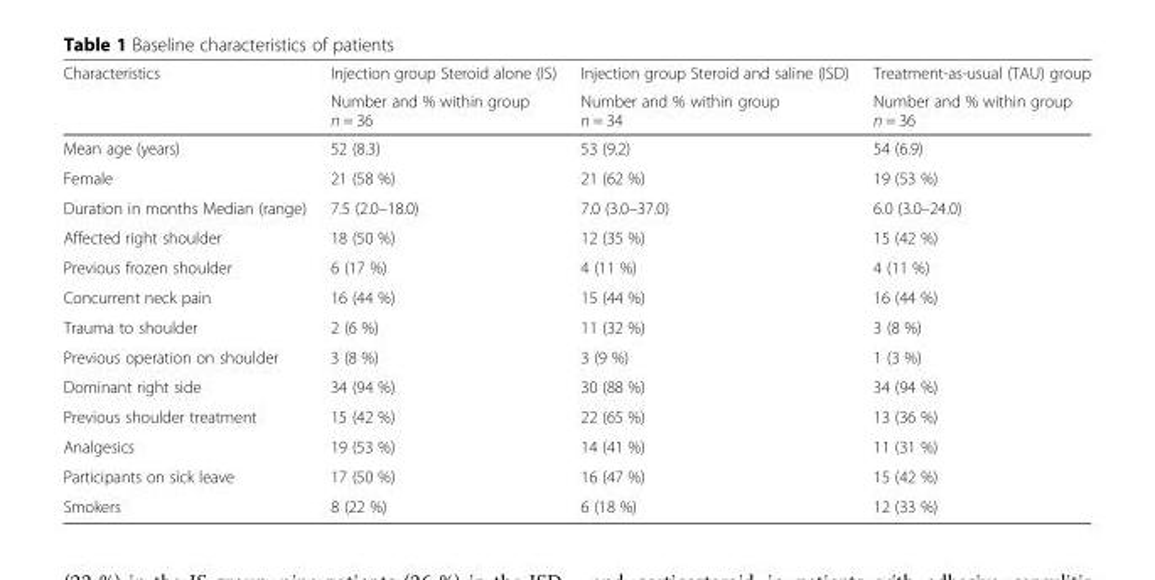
<table><thead><tr><td rowspan="2">Characteristics</td><td rowspan="2">Injection group Steroid alone (IS) Number and % within group n = 36</td><td rowspan="2">Injection group Steroid and saline (ISD) Number and % within group n = 34</td><td rowspan="2">Treatment-as-usual (TAU) group Number and % within group n = 36</td></tr><tr></tr></thead><tbody><tr><td>Mean age (years)</td><td>52 (8.3)</td><td>53 (9.2)</td><td>54 (6.9)</td></tr><tr><td>Female</td><td>21 (58 %)</td><td>21 (62 %)</td><td>19 (53 %)</td></tr><tr><td>Duration in months Median (range)</td><td>7.5 (2.0–18.0)</td><td>7.0 (3.0–37.0)</td><td>6.0 (3.0–24.0)</td></tr><tr><td>Affected right shoulder</td><td>18 (50 %)</td><td>12 (35 %)</td><td>15 (42 %)</td></tr><tr><td>Previous frozen shoulder</td><td>6 (17 %)</td><td>4 (11 %)</td><td>4 (11 %)</td></tr><tr><td>Concurrent neck pain</td><td>16 (44 %)</td><td>15 (44 %)</td><td>16 (44 %)</td></tr><tr><td>Trauma to shoulder</td><td>2 (6 %)</td><td>11 (32 %)</td><td>3 (8 %)</td></tr><tr><td>Previous operation on shoulder</td><td>3 (8 %)</td><td>3 (9 %)</td><td>1 (3 %)</td></tr><tr><td>Dominant right side</td><td>34 (94 %)</td><td>30 (88 %)</td><td>34 (94 %)</td></tr><tr><td>Previous shoulder treatment</td><td>15 (42 %)</td><td>22 (65 %)</td><td>13 (36 %)</td></tr><tr><td>Analgesics</td><td>19 (53 %)</td><td>14 (41 %)</td><td>11 (31 %)</td></tr><tr><td>Participants on sick leave</td><td>17 (50 %)</td><td>16 (47 %)</td><td>15 (42 %)</td></tr><tr><td>Smokers</td><td>8 (22 %)</td><td>6 (18 %)</td><td>12 (33 %)</td></tr></tbody></table>